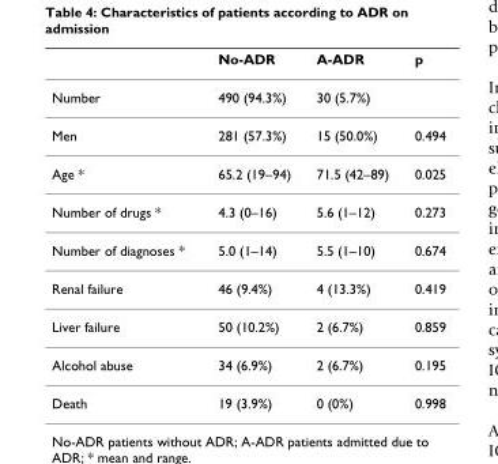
<table><thead><tr><td></td><td>No-ADR</td><td>A-ADR</td><td>p</td></tr></thead><tbody><tr><td>Number</td><td>490 (94.3%)</td><td>30 (5.7%)</td><td></td></tr><tr><td>Men</td><td>281 (57.3%)</td><td>15 (50.0%)</td><td>0.494</td></tr><tr><td>Age *</td><td>65.2 (19–94)</td><td>71.5 (42–89)</td><td>0.025</td></tr><tr><td>Number of drugs *</td><td>4.3 (0–16)</td><td>5.6 (1–12)</td><td>0.273</td></tr><tr><td>Number of diagnoses *</td><td>5.0 (1–14)</td><td>5.5 (1–10)</td><td>0.674</td></tr><tr><td>Renal failure</td><td>46 (9.4%)</td><td>4 (13.3%)</td><td>0.419</td></tr><tr><td>Liver failure</td><td>50 (10.2%)</td><td>2 (6.7%)</td><td>0.859</td></tr><tr><td>Alcohol abuse</td><td>34 (6.9%)</td><td>2 (6.7%)</td><td>0.195</td></tr><tr><td>Death</td><td>19 (3.9%)</td><td>0 (0%)</td><td>0.998</td></tr></tbody></table>